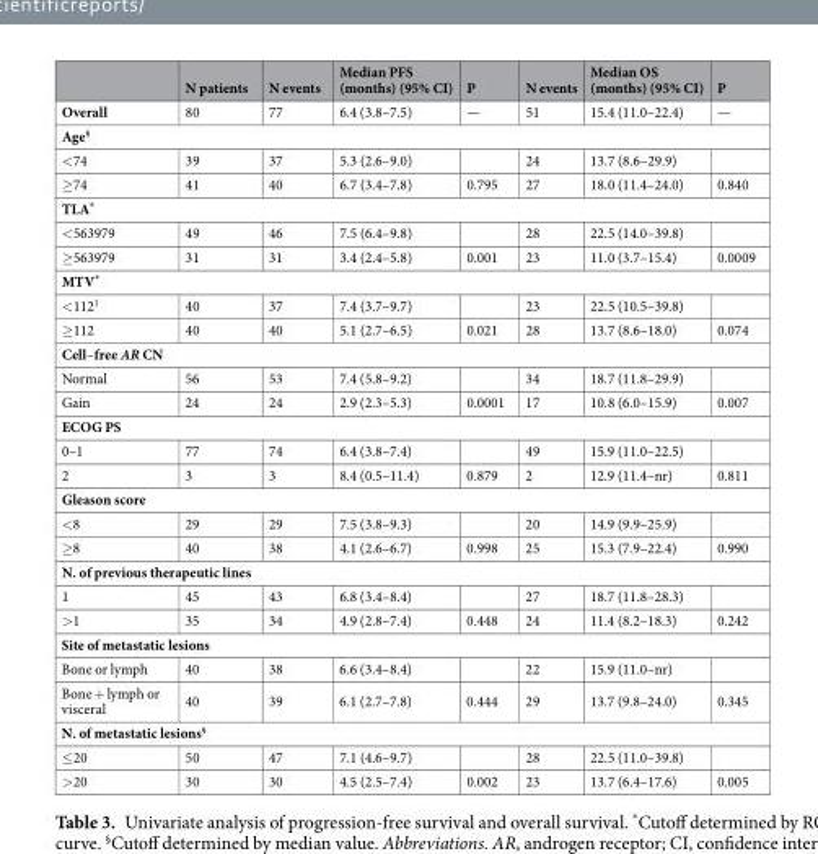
<table><thead><tr><td></td><td>N patients</td><td>N events</td><td>Median PFS (months) (95% CI)</td><td>P</td><td>N events</td><td>Median OS (months) (95% CI)</td><td>P</td></tr></thead><tbody><tr><td>Overall</td><td>80</td><td>77</td><td>6.4 (3.8–7.5)</td><td>—</td><td>51</td><td>15.4 (11.0–22.4)</td><td>—</td></tr><tr><td colspan="8">Age<sup>§</sup></td></tr><tr><td>&lt;74</td><td>39</td><td>37</td><td>5.3 (2.6–9.0)</td><td></td><td>24</td><td>13.7 (8.6–29.9)</td><td></td></tr><tr><td>≥74</td><td>41</td><td>40</td><td>6.7 (3.4–7.8)</td><td>0.795</td><td>27</td><td>18.0 (11.4–24.0)</td><td>0.840</td></tr><tr><td colspan="8">TLA*</td></tr><tr><td>&lt;563979</td><td>49</td><td>46</td><td>7.5 (6.4–9.8)</td><td></td><td>28</td><td>22.5 (14.0–39.8)</td><td></td></tr><tr><td>≥563979</td><td>31</td><td>31</td><td>3.4 (2.4–5.8)</td><td>0.001</td><td>23</td><td>11.0 (3.7–15.4)</td><td>0.0009</td></tr><tr><td colspan="8">MTV*</td></tr><tr><td>&lt;112<sup>1</sup></td><td>40</td><td>37</td><td>7.4 (3.7–9.7)</td><td></td><td>23</td><td>22.5 (10.5–39.8)</td><td></td></tr><tr><td>≥112</td><td>40</td><td>40</td><td>5.1 (2.7–6.5)</td><td>0.021</td><td>28</td><td>13.7 (8.6–18.0)</td><td>0.074</td></tr><tr><td colspan="8">Cell–free AR CN</td></tr><tr><td>Normal</td><td>56</td><td>53</td><td>7.4 (5.8–9.2)</td><td></td><td>34</td><td>18.7 (11.8–29.9)</td><td></td></tr><tr><td>Gain</td><td>24</td><td>24</td><td>2.9 (2.3–5.3)</td><td>0.0001</td><td>17</td><td>10.8 (6.0–15.9)</td><td>0.007</td></tr><tr><td colspan="8">ECOG PS</td></tr><tr><td>0–1</td><td>77</td><td>74</td><td>6.4 (3.8–7.4)</td><td></td><td>49</td><td>15.9 (11.0–22.5)</td><td></td></tr><tr><td>2</td><td>3</td><td>3</td><td>8.4 (0.5–11.4)</td><td>0.879</td><td>2</td><td>12.9 (11.4–nr)</td><td>0.811</td></tr><tr><td colspan="8">Gleason score</td></tr><tr><td>&lt;8</td><td>29</td><td>29</td><td>7.5 (3.8–9.3)</td><td></td><td>20</td><td>14.9 (9.9–25.9)</td><td></td></tr><tr><td>≥8</td><td>40</td><td>38</td><td>4.1 (2.6–6.7)</td><td>0.998</td><td>25</td><td>15.3 (7.9–22.4)</td><td>0.990</td></tr><tr><td colspan="8">N. of previous therapeutic lines</td></tr><tr><td>1</td><td>45</td><td>43</td><td>6.8 (3.4–8.4)</td><td></td><td>27</td><td>18.7 (11.8–28.3)</td><td></td></tr><tr><td>&gt;1</td><td>35</td><td>34</td><td>4.9 (2.8–7.4)</td><td>0.448</td><td>24</td><td>11.4 (8.2–18.3)</td><td>0.242</td></tr><tr><td colspan="8">Site of metastatic lesions</td></tr><tr><td>Bone or lymph</td><td>40</td><td>38</td><td>6.6 (3.4–8.4)</td><td></td><td>22</td><td>15.9 (11.0–nr)</td><td></td></tr><tr><td>Bone + lymph or visceral</td><td>40</td><td>39</td><td>6.1 (2.7–7.8)</td><td>0.444</td><td>29</td><td>13.7 (9.8–24.0)</td><td>0.345</td></tr><tr><td colspan="8">N. of metastatic lesions<sup>§</sup></td></tr><tr><td>≤20</td><td>50</td><td>47</td><td>7.1 (4.6–9.7)</td><td></td><td>28</td><td>22.5 (11.0–39.8)</td><td></td></tr><tr><td>&gt;20</td><td>30</td><td>30</td><td>4.5 (2.5–7.4)</td><td>0.002</td><td>23</td><td>13.7 (6.4–17.6)</td><td>0.005</td></tr></tbody></table>